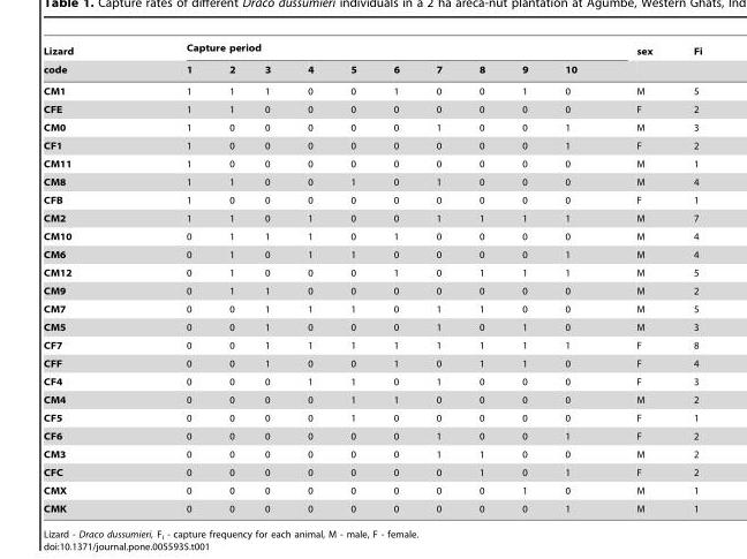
<table><thead><tr><td rowspan="2">Lizard code</td><td colspan="10">Capture period</td><td rowspan="2">sex</td><td rowspan="2">Fi</td></tr><tr><td>1</td><td>2</td><td>3</td><td>4</td><td>5</td><td>6</td><td>7</td><td>8</td><td>9</td><td>10</td></tr></thead><tbody><tr><td>CM1</td><td>1</td><td>1</td><td>1</td><td>0</td><td>0</td><td>1</td><td>0</td><td>0</td><td>1</td><td>0</td><td>M</td><td>5</td></tr><tr><td>CFE</td><td>1</td><td>1</td><td>0</td><td>0</td><td>0</td><td>0</td><td>0</td><td>0</td><td>0</td><td>0</td><td>F</td><td>2</td></tr><tr><td>CM0</td><td>1</td><td>0</td><td>0</td><td>0</td><td>0</td><td>0</td><td>1</td><td>0</td><td>0</td><td>1</td><td>M</td><td>3</td></tr><tr><td>CF1</td><td>1</td><td>0</td><td>0</td><td>0</td><td>0</td><td>0</td><td>0</td><td>0</td><td>0</td><td>1</td><td>F</td><td>2</td></tr><tr><td>CM11</td><td>1</td><td>0</td><td>0</td><td>0</td><td>0</td><td>0</td><td>0</td><td>0</td><td>0</td><td>0</td><td>M</td><td>1</td></tr><tr><td>CM8</td><td>1</td><td>1</td><td>0</td><td>0</td><td>1</td><td>0</td><td>1</td><td>0</td><td>0</td><td>0</td><td>M</td><td>4</td></tr><tr><td>CFB</td><td>1</td><td>0</td><td>0</td><td>0</td><td>0</td><td>0</td><td>0</td><td>0</td><td>0</td><td>0</td><td>F</td><td>1</td></tr><tr><td>CM2</td><td>1</td><td>1</td><td>0</td><td>1</td><td>0</td><td>0</td><td>1</td><td>1</td><td>1</td><td>1</td><td>M</td><td>7</td></tr><tr><td>CM10</td><td>0</td><td>1</td><td>1</td><td>1</td><td>0</td><td>1</td><td>0</td><td>0</td><td>0</td><td>0</td><td>M</td><td>4</td></tr><tr><td>CM6</td><td>0</td><td>1</td><td>0</td><td>1</td><td>1</td><td>0</td><td>0</td><td>0</td><td>0</td><td>1</td><td>M</td><td>4</td></tr><tr><td>CM12</td><td>0</td><td>1</td><td>0</td><td>0</td><td>0</td><td>1</td><td>0</td><td>1</td><td>1</td><td>1</td><td>M</td><td>5</td></tr><tr><td>CM9</td><td>0</td><td>1</td><td>1</td><td>0</td><td>0</td><td>0</td><td>0</td><td>0</td><td>0</td><td>0</td><td>M</td><td>2</td></tr><tr><td>CM7</td><td>0</td><td>0</td><td>1</td><td>1</td><td>1</td><td>0</td><td>1</td><td>1</td><td>0</td><td>0</td><td>M</td><td>5</td></tr><tr><td>CM5</td><td>0</td><td>0</td><td>1</td><td>0</td><td>0</td><td>0</td><td>1</td><td>0</td><td>1</td><td>0</td><td>M</td><td>3</td></tr><tr><td>CF7</td><td>0</td><td>0</td><td>1</td><td>1</td><td>1</td><td>1</td><td>1</td><td>1</td><td>1</td><td>1</td><td>F</td><td>8</td></tr><tr><td>CFF</td><td>0</td><td>0</td><td>1</td><td>0</td><td>0</td><td>1</td><td>0</td><td>1</td><td>1</td><td>0</td><td>F</td><td>4</td></tr><tr><td>CF4</td><td>0</td><td>0</td><td>0</td><td>1</td><td>1</td><td>0</td><td>1</td><td>0</td><td>0</td><td>0</td><td>F</td><td>3</td></tr><tr><td>CM4</td><td>0</td><td>0</td><td>0</td><td>0</td><td>1</td><td>1</td><td>0</td><td>0</td><td>0</td><td>0</td><td>M</td><td>2</td></tr><tr><td>CF5</td><td>0</td><td>0</td><td>0</td><td>0</td><td>1</td><td>0</td><td>0</td><td>0</td><td>0</td><td>0</td><td>F</td><td>1</td></tr><tr><td>CF6</td><td>0</td><td>0</td><td>0</td><td>0</td><td>0</td><td>0</td><td>1</td><td>0</td><td>0</td><td>1</td><td>F</td><td>2</td></tr><tr><td>CM3</td><td>0</td><td>0</td><td>0</td><td>0</td><td>0</td><td>0</td><td>1</td><td>1</td><td>0</td><td>0</td><td>M</td><td>2</td></tr><tr><td>CFC</td><td>0</td><td>0</td><td>0</td><td>0</td><td>0</td><td>0</td><td>0</td><td>1</td><td>0</td><td>1</td><td>F</td><td>2</td></tr><tr><td>CMX</td><td>0</td><td>0</td><td>0</td><td>0</td><td>0</td><td>0</td><td>0</td><td>0</td><td>1</td><td>0</td><td>M</td><td>1</td></tr><tr><td>CMK</td><td>0</td><td>0</td><td>0</td><td>0</td><td>0</td><td>0</td><td>0</td><td>0</td><td>0</td><td>1</td><td>M</td><td>1</td></tr></tbody></table>